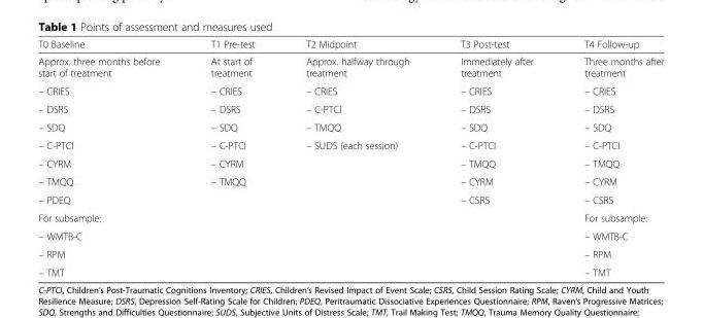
<table><thead><tr><td>T0 Baseline</td><td>T1 Pre-test</td><td>T2 Midpoint</td><td>T3 Post-test</td><td>T4 Follow-up</td></tr></thead><tbody><tr><td>Approx. three months before start of treatment</td><td>At start of treatment</td><td>Approx. halfway through treatment</td><td>Immediately after treatment</td><td>Three months after treatment</td></tr><tr><td>– CRIES</td><td>– CRIES</td><td>– CRIES</td><td>– CRIES</td><td>– CRIES</td></tr><tr><td>– DSRS</td><td>– DSRS</td><td>– C-PTCI</td><td>– DSRS</td><td>– DSRS</td></tr><tr><td>– SDQ</td><td>– SDQ</td><td>– TMQQ</td><td>– SDQ</td><td>– SDQ</td></tr><tr><td>– C-PTCI</td><td>– C-PTCI</td><td>– SUDS (each session)</td><td>– C-PTCI</td><td>– C-PTCI</td></tr><tr><td>– CYRM</td><td>– CYRM</td><td></td><td>– TMQQ</td><td>– TMQQ</td></tr><tr><td>– TMQQ</td><td>– TMQQ</td><td></td><td>– CYRM</td><td>– CYRM</td></tr><tr><td>– PDEQ</td><td></td><td></td><td>– CSRS</td><td>– CSRS</td></tr><tr><td>For subsample:</td><td></td><td></td><td></td><td>For subsample:</td></tr><tr><td>– WMTB-C</td><td></td><td></td><td></td><td>– WMTB-C</td></tr><tr><td>– RPM</td><td></td><td></td><td></td><td>– RPM</td></tr><tr><td>– TMT</td><td></td><td></td><td></td><td>– TMT</td></tr></tbody></table>